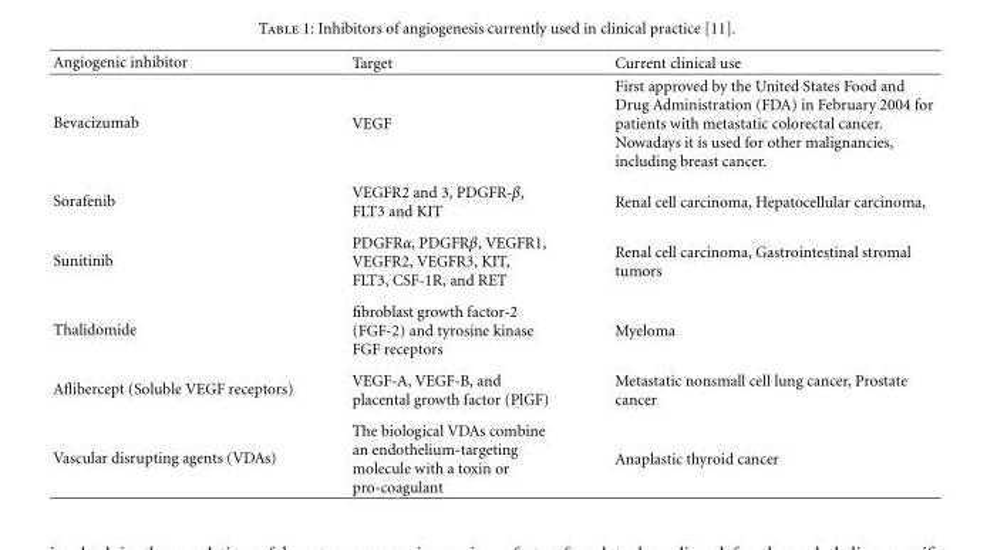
<table><thead><tr><td>Angiogenic inhibitor</td><td>Target</td><td>Current clinical use</td></tr></thead><tbody><tr><td>Bevacizumab</td><td>VEGF</td><td>First approved by the United States Food and Drug Administration (FDA) in February 2004 for patients with metastatic colorectal cancer. Nowadays it is used for other malignancies, including breast cancer.</td></tr><tr><td>Sorafenib</td><td>VEGFR2 and 3, PDGFR-β, FLT3 and KIT</td><td>Renal cell carcinoma, Hepatocellular carcinoma,</td></tr><tr><td>Sunitinib</td><td>PDGFRα, PDGFRβ, VEGFR1, VEGFR2, VEGFR3, KIT, FLT3, CSF-1R, and RET</td><td>Renal cell carcinoma, Gastrointestinal stromal tumors</td></tr><tr><td>Thalidomide</td><td>fibroblast growth factor-2 (FGF-2) and tyrosine kinase FGF receptors</td><td>Myeloma</td></tr><tr><td>Aflibercept (Soluble VEGF receptors)</td><td>VEGF-A, VEGF-B, and placental growth factor (PlGF)</td><td>Metastatic nonsmall cell lung cancer, Prostate cancer</td></tr><tr><td>Vascular disrupting agents (VDAs)</td><td>The biological VDAs combine an endothelium-targeting molecule with a toxin or pro-coagulant</td><td>Anaplastic thyroid cancer</td></tr></tbody></table>